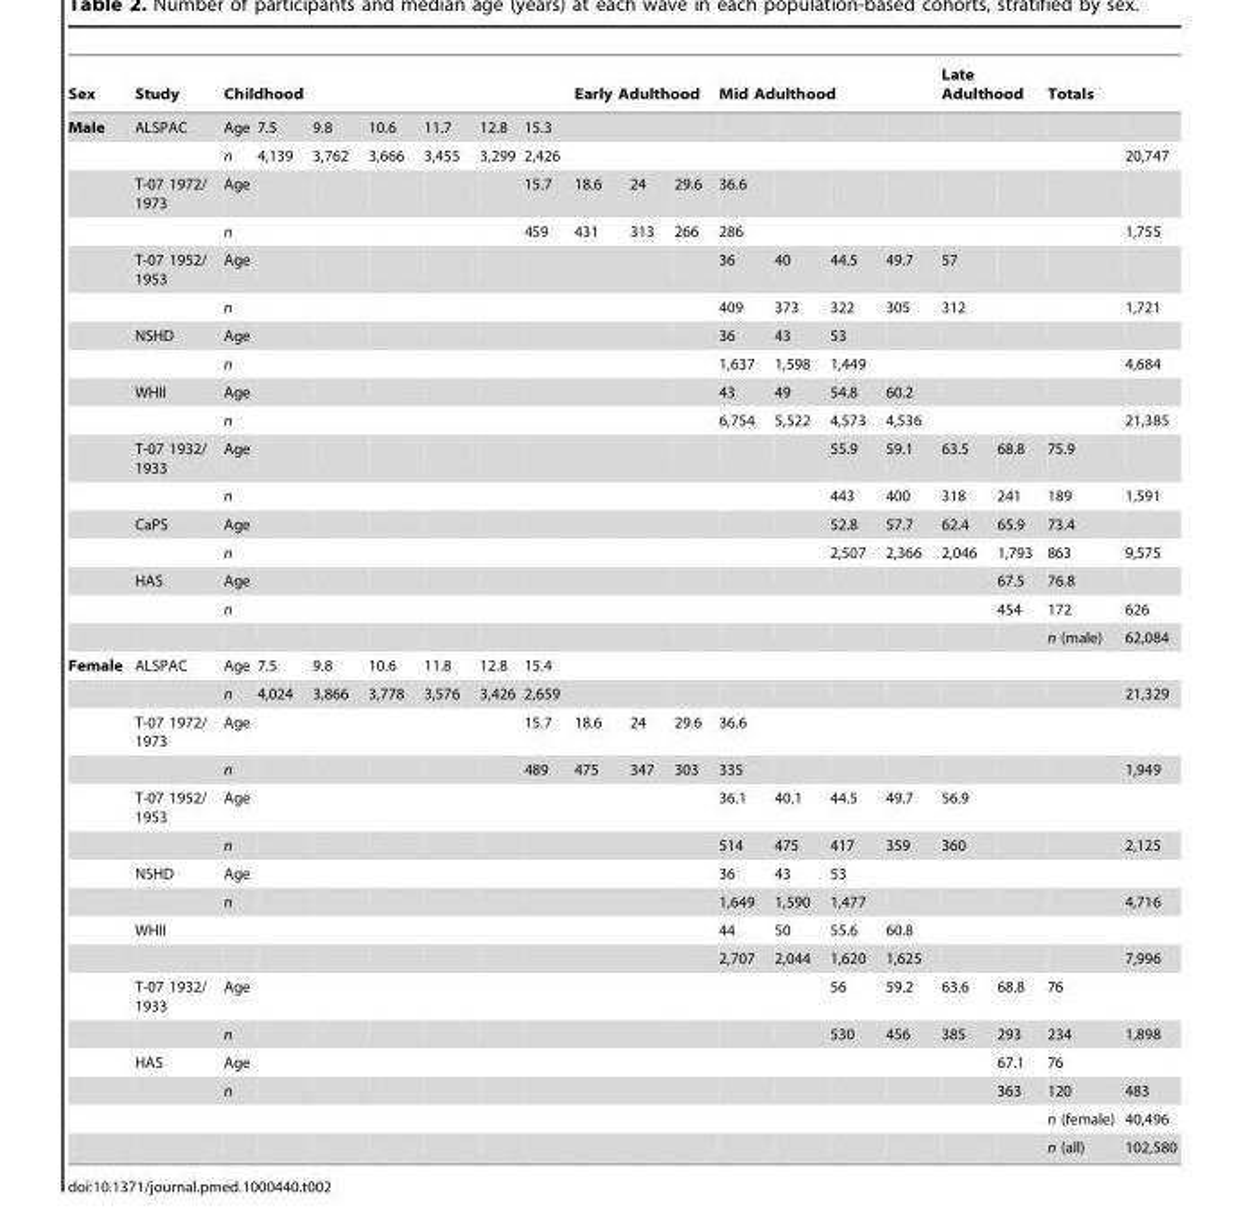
<table><thead><tr><td rowspan="2">Sex Male</td><td rowspan="2">Study ALSPAC</td><td colspan="7">Childhood</td><td colspan="3">Early Adulthood</td><td colspan="4">Mid Adulthood</td><td colspan="2">Late Adulthood</td><td colspan="2">Totals</td></tr><tr><td>Age</td><td>7.5</td><td>9.8</td><td>10.6</td><td>11.7</td><td>12.8</td><td>15.3</td><td></td><td></td><td></td><td></td><td></td><td></td><td></td><td></td><td></td><td></td><td></td></tr></thead><tbody><tr><td></td><td></td><td>n</td><td>4,139</td><td>3,762</td><td>3,666</td><td>3,455</td><td>3,299</td><td>2,426</td><td></td><td></td><td></td><td></td><td></td><td></td><td></td><td></td><td></td><td></td><td>20,747</td></tr><tr><td></td><td>T-07 1972/ 1973</td><td>Age</td><td></td><td></td><td></td><td></td><td></td><td>15.7</td><td>18.6</td><td>24</td><td>29.6</td><td>36.6</td><td></td><td></td><td></td><td></td><td></td><td></td><td></td></tr><tr><td></td><td></td><td>n</td><td></td><td></td><td></td><td></td><td></td><td>459</td><td>431</td><td>313</td><td>266</td><td>286</td><td></td><td></td><td></td><td></td><td></td><td></td><td>1,755</td></tr><tr><td></td><td>T-07 1952/ 1953</td><td>Age</td><td></td><td></td><td></td><td></td><td></td><td></td><td></td><td></td><td></td><td>36</td><td>40</td><td>44.5</td><td>49.7</td><td>57</td><td></td><td></td><td></td></tr><tr><td></td><td></td><td>n</td><td></td><td></td><td></td><td></td><td></td><td></td><td></td><td></td><td></td><td>409</td><td>373</td><td>322</td><td>305</td><td>312</td><td></td><td></td><td>1,721</td></tr><tr><td></td><td>NSHD</td><td>Age</td><td></td><td></td><td></td><td></td><td></td><td></td><td></td><td></td><td></td><td>36</td><td>43</td><td>53</td><td></td><td></td><td></td><td></td><td></td></tr><tr><td></td><td></td><td>n</td><td></td><td></td><td></td><td></td><td></td><td></td><td></td><td></td><td></td><td>1,637</td><td>1,598</td><td>1,449</td><td></td><td></td><td></td><td></td><td>4,684</td></tr><tr><td></td><td>WHII</td><td>Age</td><td></td><td></td><td></td><td></td><td></td><td></td><td></td><td></td><td></td><td>43</td><td>49</td><td>54.8</td><td>60.2</td><td></td><td></td><td></td><td></td></tr><tr><td></td><td></td><td>n</td><td></td><td></td><td></td><td></td><td></td><td></td><td></td><td></td><td></td><td>6,754</td><td>5,522</td><td>4,573</td><td>4,536</td><td></td><td></td><td></td><td>21,385</td></tr><tr><td></td><td>T-07 1932/ 1933</td><td>Age</td><td></td><td></td><td></td><td></td><td></td><td></td><td></td><td></td><td></td><td></td><td></td><td>55.9</td><td>59.1</td><td>63.5</td><td>68.8</td><td>75.9</td><td></td></tr><tr><td></td><td></td><td>n</td><td></td><td></td><td></td><td></td><td></td><td></td><td></td><td></td><td></td><td></td><td></td><td>443</td><td>400</td><td>318</td><td>241</td><td>189</td><td>1,591</td></tr><tr><td></td><td>CaPS</td><td>Age</td><td></td><td></td><td></td><td></td><td></td><td></td><td></td><td></td><td></td><td></td><td></td><td>52.8</td><td>57.7</td><td>62.4</td><td>65.9</td><td>73.4</td><td></td></tr><tr><td></td><td></td><td>n</td><td></td><td></td><td></td><td></td><td></td><td></td><td></td><td></td><td></td><td></td><td></td><td>2,507</td><td>2,366</td><td>2,046</td><td>1,793</td><td>863</td><td>9,575</td></tr><tr><td></td><td>HAS</td><td>Age</td><td></td><td></td><td></td><td></td><td></td><td></td><td></td><td></td><td></td><td></td><td></td><td></td><td></td><td></td><td>67.5</td><td>76.8</td><td></td></tr><tr><td></td><td></td><td>n</td><td></td><td></td><td></td><td></td><td></td><td></td><td></td><td></td><td></td><td></td><td></td><td></td><td></td><td></td><td>454</td><td>172</td><td>626</td></tr><tr><td></td><td></td><td></td><td></td><td></td><td></td><td></td><td></td><td></td><td></td><td></td><td></td><td></td><td></td><td></td><td></td><td></td><td></td><td>n (male)</td><td>62,084</td></tr><tr><td rowspan="16">Female</td><td>ALSPAC</td><td>Age</td><td>7.5</td><td>9.8</td><td>10.6</td><td>11.8</td><td>12.8</td><td>15.4</td><td></td><td></td><td></td><td></td><td></td><td></td><td></td><td></td><td></td><td></td><td></td></tr><tr><td></td><td>n</td><td>4,024</td><td>3,866</td><td>3,778</td><td>3,576</td><td>3,426</td><td>2,659</td><td></td><td></td><td></td><td></td><td></td><td></td><td></td><td></td><td></td><td></td><td>21,329</td></tr><tr><td>T-07 1972/ 1973</td><td>Age</td><td></td><td></td><td></td><td></td><td></td><td>15.7</td><td>18.6</td><td>24</td><td>29.6</td><td>36.6</td><td></td><td></td><td></td><td></td><td></td><td></td><td></td></tr><tr><td></td><td>n</td><td></td><td></td><td></td><td></td><td></td><td>489</td><td>475</td><td>347</td><td>303</td><td>335</td><td></td><td></td><td></td><td></td><td></td><td></td><td>1,949</td></tr><tr><td>T-07 1952/ 1953</td><td>Age</td><td></td><td></td><td></td><td></td><td></td><td></td><td></td><td></td><td></td><td>36.1</td><td>40.1</td><td>44.5</td><td>49.7</td><td>56.9</td><td></td><td></td><td></td></tr><tr><td></td><td>n</td><td></td><td></td><td></td><td></td><td></td><td></td><td></td><td></td><td></td><td>514</td><td>475</td><td>417</td><td>359</td><td>360</td><td></td><td></td><td>2,125</td></tr><tr><td>NSHD</td><td>Age</td><td></td><td></td><td></td><td></td><td></td><td></td><td></td><td></td><td></td><td>36</td><td>43</td><td>53</td><td></td><td></td><td></td><td></td><td></td></tr><tr><td></td><td>n</td><td></td><td></td><td></td><td></td><td></td><td></td><td></td><td></td><td></td><td>1,649</td><td>1,590</td><td>1,477</td><td></td><td></td><td></td><td></td><td>4,716</td></tr><tr><td>WHII</td><td></td><td></td><td></td><td></td><td></td><td></td><td></td><td></td><td></td><td></td><td>44</td><td>50</td><td>55.6</td><td>60.8</td><td></td><td></td><td></td><td></td></tr><tr><td></td><td></td><td></td><td></td><td></td><td></td><td></td><td></td><td></td><td></td><td></td><td>2,707</td><td>2,044</td><td>1,620</td><td>1,625</td><td></td><td></td><td></td><td>7,996</td></tr><tr><td>T-07 1932/ 1933</td><td>Age</td><td></td><td></td><td></td><td></td><td></td><td></td><td></td><td></td><td></td><td></td><td></td><td>56</td><td>59.2</td><td>63.6</td><td>68.8</td><td>76</td><td></td></tr><tr><td></td><td>n</td><td></td><td></td><td></td><td></td><td></td><td></td><td></td><td></td><td></td><td></td><td></td><td>530</td><td>456</td><td>385</td><td>293</td><td>234</td><td>1,898</td></tr><tr><td>HAS</td><td>Age</td><td></td><td></td><td></td><td></td><td></td><td></td><td></td><td></td><td></td><td></td><td></td><td></td><td></td><td></td><td>67.1</td><td>76</td><td></td></tr><tr><td></td><td>n</td><td></td><td></td><td></td><td></td><td></td><td></td><td></td><td></td><td></td><td></td><td></td><td></td><td></td><td></td><td>363</td><td>120</td><td>483</td></tr><tr><td></td><td></td><td></td><td></td><td></td><td></td><td></td><td></td><td></td><td></td><td></td><td></td><td></td><td></td><td></td><td></td><td></td><td>n (female)</td><td>40,496</td></tr><tr><td></td><td></td><td></td><td></td><td></td><td></td><td></td><td></td><td></td><td></td><td></td><td></td><td></td><td></td><td></td><td></td><td></td><td>n (all)</td><td>102,580</td></tr></tbody></table>